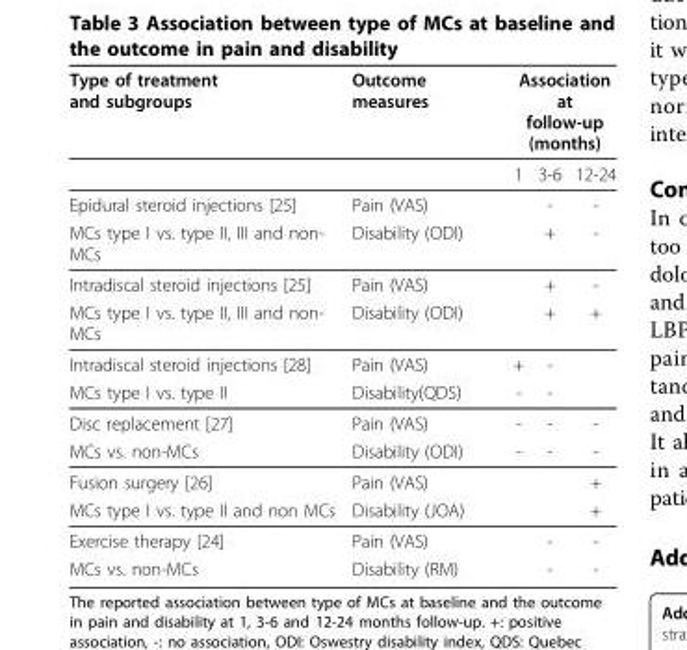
<table><thead><tr><td rowspan="2">Type of treatment and subgroups</td><td rowspan="2">Outcome measures</td><td colspan="3">Association at follow-up (months)</td></tr><tr><td>1</td><td>3-6</td><td>12-24</td></tr></thead><tbody><tr><td>Epidural steroid injections [25]</td><td>Pain (VAS)</td><td></td><td>-</td><td>-</td></tr><tr><td>MCs type I vs. type II, III and non- MCs</td><td>Disability (ODI)</td><td></td><td>+</td><td>-</td></tr><tr><td>Intradiscal steroid injections [25]</td><td>Pain (VAS)</td><td></td><td>+</td><td>-</td></tr><tr><td>MCs type I vs. type II, III and non- MCs</td><td>Disability (ODI)</td><td></td><td>+</td><td>+</td></tr><tr><td>Intradiscal steroid injections [28]</td><td>Pain (VAS)</td><td>+</td><td>-</td><td></td></tr><tr><td>MCs type I vs. type II</td><td>Disability(QDS)</td><td>-</td><td>-</td><td></td></tr><tr><td>Disc replacement [27]</td><td>Pain (VAS)</td><td>-</td><td>-</td><td>-</td></tr><tr><td>MCs vs. non-MCs</td><td>Disability (ODI)</td><td>-</td><td>-</td><td>-</td></tr><tr><td>Fusion surgery [26]</td><td>Pain (VAS)</td><td></td><td></td><td>+</td></tr><tr><td>MCs type I vs. type II and non MCs</td><td>Disability (JOA)</td><td></td><td></td><td>+</td></tr><tr><td>Exercise therapy [24]</td><td>Pain (VAS)</td><td></td><td>-</td><td>-</td></tr><tr><td>MCs vs. non-MCs</td><td>Disability (RM)</td><td></td><td>-</td><td>-</td></tr></tbody></table>